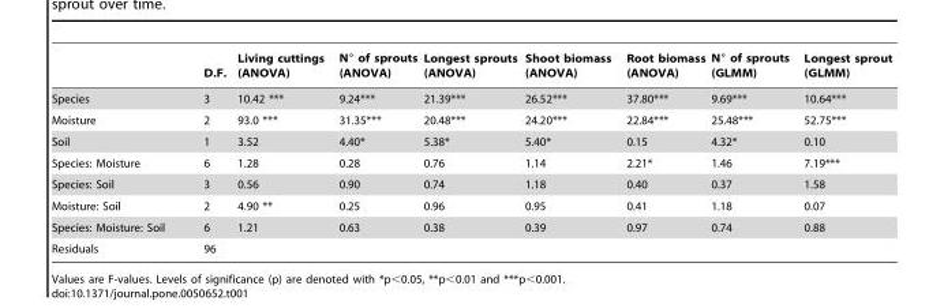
<table><thead><tr><td></td><td>D.F.</td><td>Living cuttings (ANOVA)</td><td>N° of sprouts (ANOVA)</td><td>Longest sprouts (ANOVA)</td><td>Shoot biomass (ANOVA)</td><td>Root biomass (ANOVA)</td><td>N° of sprouts (GLMM)</td><td>Longest sprout (GLMM)</td></tr></thead><tbody><tr><td>Species</td><td>3</td><td>10.42 ***</td><td>9.24***</td><td>21.39***</td><td>26.52***</td><td>37.80***</td><td>9.69***</td><td>10.64***</td></tr><tr><td>Moisture</td><td>2</td><td>93.0 ***</td><td>31.35***</td><td>20.48***</td><td>24.20***</td><td>22.84***</td><td>25.48***</td><td>52.75***</td></tr><tr><td>Soil</td><td>1</td><td>3.52</td><td>4.40*</td><td>5.38*</td><td>5.40*</td><td>0.15</td><td>4.32*</td><td>0.10</td></tr><tr><td>Species: Moisture</td><td>6</td><td>1.28</td><td>0.28</td><td>0.76</td><td>1.14</td><td>2.21*</td><td>1.46</td><td>7.19***</td></tr><tr><td>Species: Soil</td><td>3</td><td>0.56</td><td>0.90</td><td>0.74</td><td>1.18</td><td>0.40</td><td>0.37</td><td>1.58</td></tr><tr><td>Moisture: Soil</td><td>2</td><td>4.90 **</td><td>0.25</td><td>0.96</td><td>0.95</td><td>0.41</td><td>1.18</td><td>0.07</td></tr><tr><td>Species: Moisture: Soil</td><td>6</td><td>1.21</td><td>0.63</td><td>0.38</td><td>0.39</td><td>0.97</td><td>0.74</td><td>0.88</td></tr><tr><td>Residuals</td><td>96</td><td></td><td></td><td></td><td></td><td></td><td></td><td></td></tr></tbody></table>